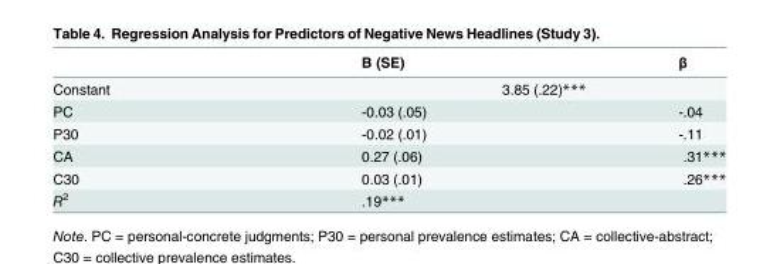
<table><thead><tr><td></td><td>B (SE)</td><td>β</td></tr></thead><tbody><tr><td>Constant</td><td colspan="2">3.85 (.22)***</td></tr><tr><td>PC</td><td>-0.03 (.05)</td><td>-.04</td></tr><tr><td>P30</td><td>-0.02 (.01)</td><td>-.11</td></tr><tr><td>CA</td><td>0.27 (.06)</td><td>.31***</td></tr><tr><td>C30</td><td>0.03 (.01)</td><td>.26***</td></tr><tr><td>R<sup>2</sup></td><td>.19***</td><td></td></tr></tbody></table>